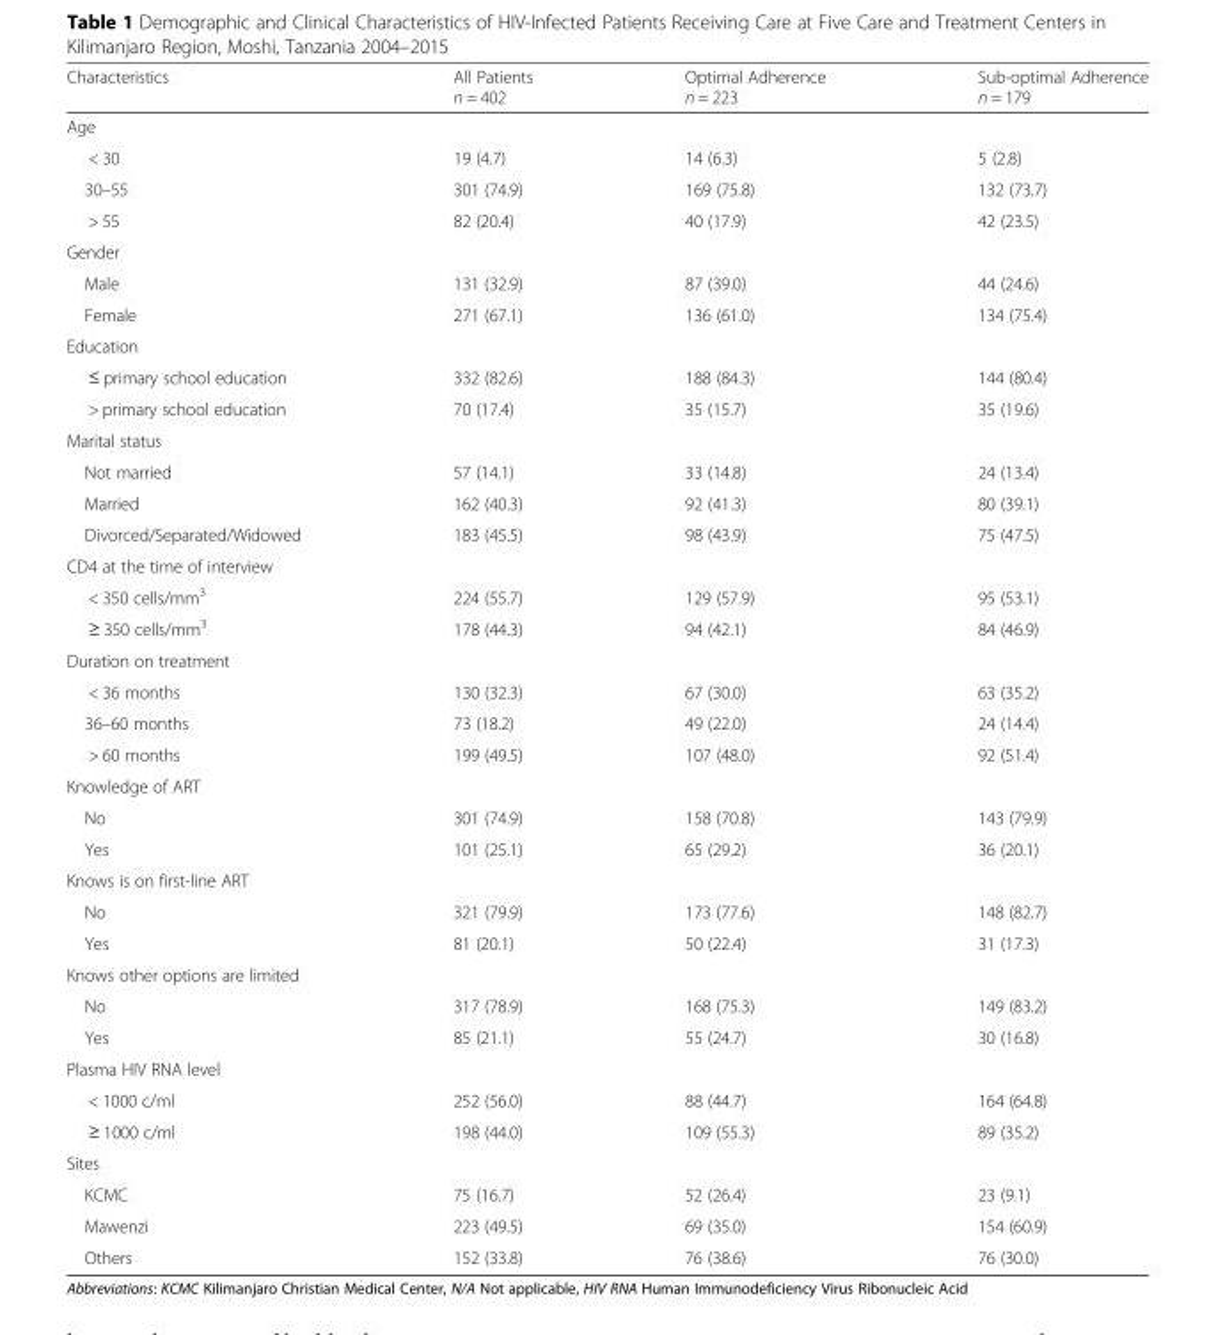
<table><thead><tr><td>Characteristics</td><td>All Patients n = 402</td><td>Optimal Adherence n = 223</td><td>Sub-optimal Adherence n = 179</td></tr></thead><tbody><tr><td colspan="4">Age</td></tr><tr><td>&lt; 30</td><td>19 (4.7)</td><td>14 (6.3)</td><td>5 (2.8)</td></tr><tr><td>30–55</td><td>301 (74.9)</td><td>169 (75.8)</td><td>132 (73.7)</td></tr><tr><td>&gt; 55</td><td>82 (20.4)</td><td>40 (17.9)</td><td>42 (23.5)</td></tr><tr><td colspan="4">Gender</td></tr><tr><td>Male</td><td>131 (32.9)</td><td>87 (39.0)</td><td>44 (24.6)</td></tr><tr><td>Female</td><td>271 (67.1)</td><td>136 (61.0)</td><td>134 (75.4)</td></tr><tr><td colspan="4">Education</td></tr><tr><td>≤ primary school education</td><td>332 (82.6)</td><td>188 (84.3)</td><td>144 (80.4)</td></tr><tr><td>&gt; primary school education</td><td>70 (17.4)</td><td>35 (15.7)</td><td>35 (19.6)</td></tr><tr><td colspan="4">Marital status</td></tr><tr><td>Not married</td><td>57 (14.1)</td><td>33 (14.8)</td><td>24 (13.4)</td></tr><tr><td>Married</td><td>162 (40.3)</td><td>92 (41.3)</td><td>80 (39.1)</td></tr><tr><td>Divorced/Separated/Widowed</td><td>183 (45.5)</td><td>98 (43.9)</td><td>75 (47.5)</td></tr><tr><td colspan="4">CD4 at the time of interview</td></tr><tr><td>&lt; 350 cells/mm<sup>3</sup></td><td>224 (55.7)</td><td>129 (57.9)</td><td>95 (53.1)</td></tr><tr><td>≥ 350 cells/mm<sup>3</sup></td><td>178 (44.3)</td><td>94 (42.1)</td><td>84 (46.9)</td></tr><tr><td colspan="4">Duration on treatment</td></tr><tr><td>&lt; 36 months</td><td>130 (32.3)</td><td>67 (30.0)</td><td>63 (35.2)</td></tr><tr><td>36–60 months</td><td>73 (18.2)</td><td>49 (22.0)</td><td>24 (14.4)</td></tr><tr><td>&gt; 60 months</td><td>199 (49.5)</td><td>107 (48.0)</td><td>92 (51.4)</td></tr><tr><td colspan="4">Knowledge of ART</td></tr><tr><td>No</td><td>301 (74.9)</td><td>158 (70.8)</td><td>143 (79.9)</td></tr><tr><td>Yes</td><td>101 (25.1)</td><td>65 (29.2)</td><td>36 (20.1)</td></tr><tr><td colspan="4">Knows is on first-line ART</td></tr><tr><td>No</td><td>321 (79.9)</td><td>173 (77.6)</td><td>148 (82.7)</td></tr><tr><td>Yes</td><td>81 (20.1)</td><td>50 (22.4)</td><td>31 (17.3)</td></tr><tr><td colspan="4">Knows other options are limited</td></tr><tr><td>No</td><td>317 (78.9)</td><td>168 (75.3)</td><td>149 (83.2)</td></tr><tr><td>Yes</td><td>85 (21.1)</td><td>55 (24.7)</td><td>30 (16.8)</td></tr><tr><td colspan="4">Plasma HIV RNA level</td></tr><tr><td>&lt; 1000 c/ml</td><td>252 (56.0)</td><td>88 (44.7)</td><td>164 (64.8)</td></tr><tr><td>≥ 1000 c/ml</td><td>198 (44.0)</td><td>109 (55.3)</td><td>89 (35.2)</td></tr><tr><td colspan="4">Sites</td></tr><tr><td>KCMC</td><td>75 (16.7)</td><td>52 (26.4)</td><td>23 (9.1)</td></tr><tr><td>Mawenzi</td><td>223 (49.5)</td><td>69 (35.0)</td><td>154 (60.9)</td></tr><tr><td>Others</td><td>152 (33.8)</td><td>76 (38.6)</td><td>76 (30.0)</td></tr></tbody></table>